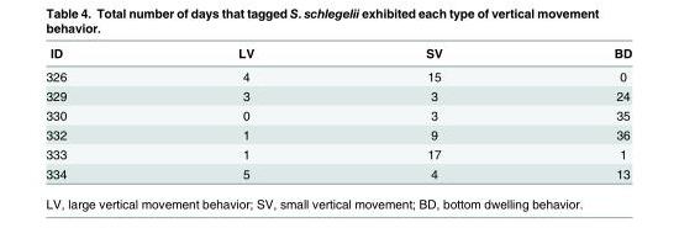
<table><thead><tr><td>ID</td><td>LV</td><td>SV</td><td>BD</td></tr></thead><tbody><tr><td>326</td><td>4</td><td>15</td><td>0</td></tr><tr><td>329</td><td>3</td><td>3</td><td>24</td></tr><tr><td>330</td><td>0</td><td>3</td><td>35</td></tr><tr><td>332</td><td>1</td><td>9</td><td>36</td></tr><tr><td>333</td><td>1</td><td>17</td><td>1</td></tr><tr><td>334</td><td>5</td><td>4</td><td>13</td></tr></tbody></table>